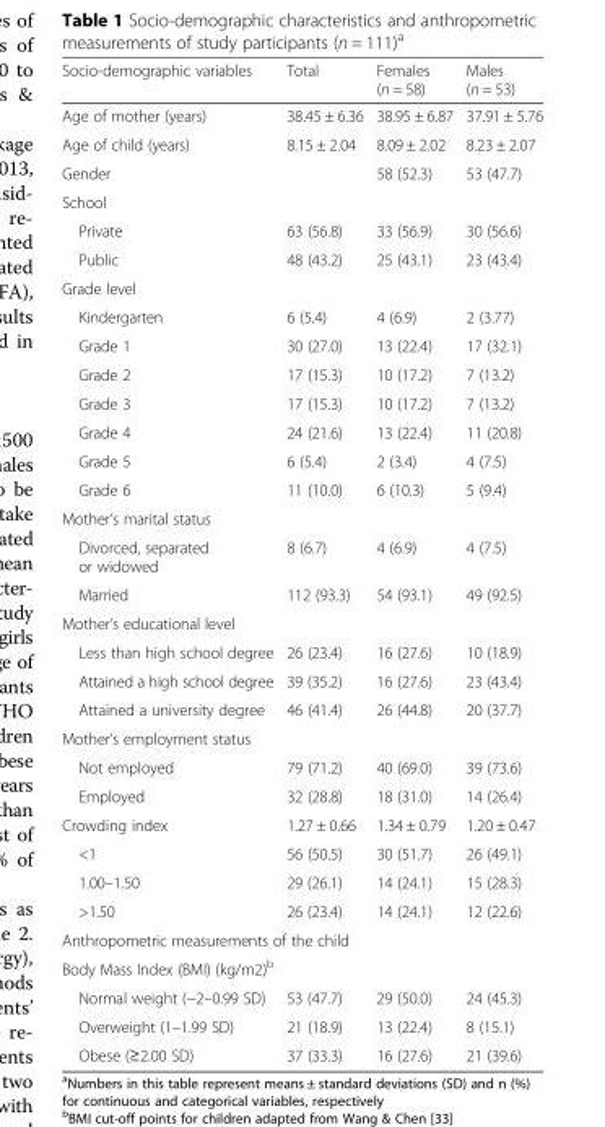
<table><thead><tr><td>Socio-demographic variables</td><td>Total</td><td>Females (n = 58)</td><td>Males (n = 53)</td></tr></thead><tbody><tr><td>Age of mother (years)</td><td>38.45 ± 6.36</td><td>38.95 ± 6.87</td><td>37.91 ± 5.76</td></tr><tr><td>Age of child (years)</td><td>8.15 ± 2.04</td><td>8.09 ± 2.02</td><td>8.23 ± 2.07</td></tr><tr><td>Gender</td><td></td><td>58 (52.3)</td><td>53 (47.7)</td></tr><tr><td colspan="4">School</td></tr><tr><td>Private</td><td>63 (56.8)</td><td>33 (56.9)</td><td>30 (56.6)</td></tr><tr><td>Public</td><td>48 (43.2)</td><td>25 (43.1)</td><td>23 (43.4)</td></tr><tr><td colspan="4">Grade level</td></tr><tr><td>Kindergarten</td><td>6 (5.4)</td><td>4 (6.9)</td><td>2 (3.77)</td></tr><tr><td>Grade 1</td><td>30 (27.0)</td><td>13 (22.4)</td><td>17 (32.1)</td></tr><tr><td>Grade 2</td><td>17 (15.3)</td><td>10 (17.2)</td><td>7 (13.2)</td></tr><tr><td>Grade 3</td><td>17 (15.3)</td><td>10 (17.2)</td><td>7 (13.2)</td></tr><tr><td>Grade 4</td><td>24 (21.6)</td><td>13 (22.4)</td><td>11 (20.8)</td></tr><tr><td>Grade 5</td><td>6 (5.4)</td><td>2 (3.4)</td><td>4 (7.5)</td></tr><tr><td>Grade 6</td><td>11 (10.0)</td><td>6 (10.3)</td><td>5 (9.4)</td></tr><tr><td colspan="4">Mother’s marital status</td></tr><tr><td>Divorced, separated or widowed</td><td>8 (6.7)</td><td>4 (6.9)</td><td>4 (7.5)</td></tr><tr><td>Married</td><td>112 (93.3)</td><td>54 (93.1)</td><td>49 (92.5)</td></tr><tr><td colspan="4">Mother’s educational level</td></tr><tr><td>Less than high school degree</td><td>26 (23.4)</td><td>16 (27.6)</td><td>10 (18.9)</td></tr><tr><td>Attained a high school degree</td><td>39 (35.2)</td><td>16 (27.6)</td><td>23 (43.4)</td></tr><tr><td>Attained a university degree</td><td>46 (41.4)</td><td>26 (44.8)</td><td>20 (37.7)</td></tr><tr><td colspan="4">Mother’s employment status</td></tr><tr><td>Not employed</td><td>79 (71.2)</td><td>40 (69.0)</td><td>39 (73.6)</td></tr><tr><td>Employed</td><td>32 (28.8)</td><td>18 (31.0)</td><td>14 (26.4)</td></tr><tr><td>Crowding index</td><td>1.27 ± 0.66</td><td>1.34 ± 0.79</td><td>1.20 ± 0.47</td></tr><tr><td>&lt;1</td><td>56 (50.5)</td><td>30 (51.7)</td><td>26 (49.1)</td></tr><tr><td>1.00–1.50</td><td>29 (26.1)</td><td>14 (24.1)</td><td>15 (28.3)</td></tr><tr><td>&gt;1.50</td><td>26 (23.4)</td><td>14 (24.1)</td><td>12 (22.6)</td></tr><tr><td colspan="4">Anthropometric measurements of the child</td></tr><tr><td colspan="4">Body Mass Index (BMI) (kg/m2)<sup>b</sup></td></tr><tr><td>Normal weight (−2–0.99 SD)</td><td>53 (47.7)</td><td>29 (50.0)</td><td>24 (45.3)</td></tr><tr><td>Overweight (1–1.99 SD)</td><td>21 (18.9)</td><td>13 (22.4)</td><td>8 (15.1)</td></tr><tr><td>Obese (≥2.00 SD)</td><td>37 (33.3)</td><td>16 (27.6)</td><td>21 (39.6)</td></tr></tbody></table>